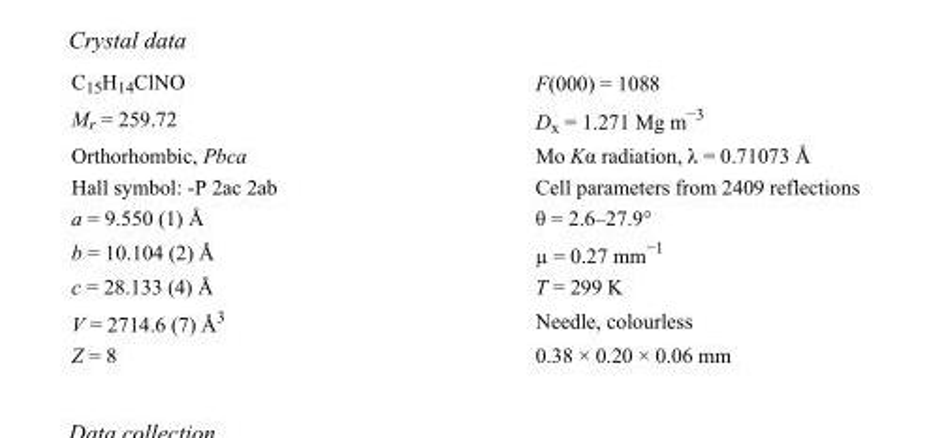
<table><tbody><tr><td>C<sub>15</sub>H<sub>14</sub>ClNO</td><td>F(000) = 1088</td></tr><tr><td>M<sub>r</sub> = 259.72</td><td>D<sub>x</sub> = 1.271 Mg m<sup>−3</sup></td></tr><tr><td>Orthorhombic, Pbca</td><td>Mo Kα radiation, λ = 0.71073 Å</td></tr><tr><td>Hall symbol: -P 2ac 2ab</td><td>Cell parameters from 2409 reflections</td></tr><tr><td>a = 9.550 (1) Å</td><td>θ = 2.6–27.9°</td></tr><tr><td>b = 10.104 (2) Å</td><td>µ = 0.27 mm<sup>−1</sup></td></tr><tr><td>c = 28.133 (4) Å</td><td>T = 299 K</td></tr><tr><td>V = 2714.6 (7) Å<sup>3</sup></td><td>Needle, colourless</td></tr><tr><td>Z = 8</td><td>0.38 × 0.20 × 0.06 mm</td></tr></tbody></table>